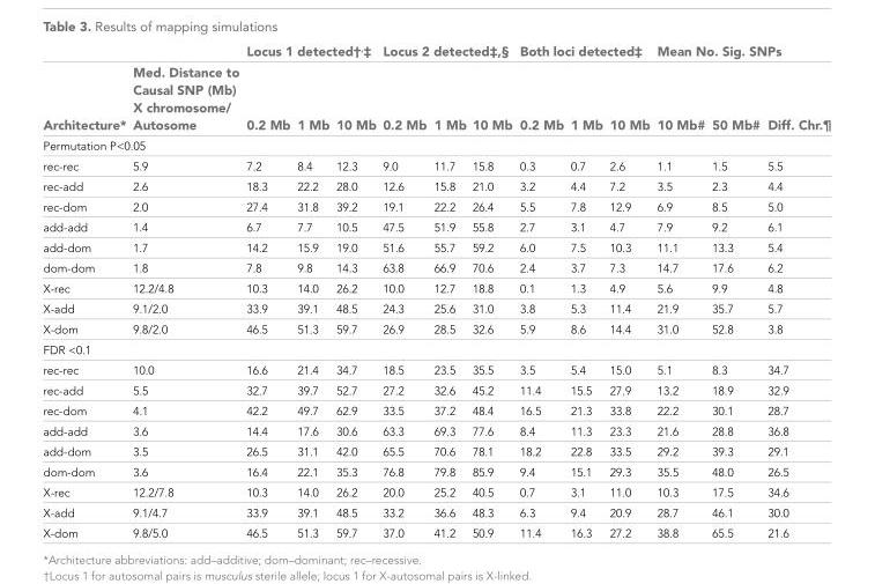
<table><thead><tr><td rowspan="2">Architecture*</td><td rowspan="2">Med. Distance to Causal SNP (Mb) X chromosome/ Autosome</td><td colspan="3">Locus 1 detected†<sup>,</sup>‡</td><td colspan="3">Locus 2 detected‡,§</td><td colspan="3">Both loci detected‡</td><td colspan="3">Mean No. Sig. SNPs</td></tr><tr><td>0.2 Mb</td><td>1 Mb</td><td>10 Mb</td><td>0.2 Mb</td><td>1 Mb</td><td>10 Mb</td><td>0.2 Mb</td><td>1 Mb</td><td>10 Mb</td><td>10 Mb#</td><td>50 Mb#</td><td>Diff. Chr.¶</td></tr></thead><tbody><tr><td colspan="14">Permutation P&lt;0.05</td></tr><tr><td>rec-rec</td><td>5.9</td><td>7.2</td><td>8.4</td><td>12.3</td><td>9.0</td><td>11.7</td><td>15.8</td><td>0.3</td><td>0.7</td><td>2.6</td><td>1.1</td><td>1.5</td><td>5.5</td></tr><tr><td>rec-add</td><td>2.6</td><td>18.3</td><td>22.2</td><td>28.0</td><td>12.6</td><td>15.8</td><td>21.0</td><td>3.2</td><td>4.4</td><td>7.2</td><td>3.5</td><td>2.3</td><td>4.4</td></tr><tr><td>rec-dom</td><td>2.0</td><td>27.4</td><td>31.8</td><td>39.2</td><td>19.1</td><td>22.2</td><td>26.4</td><td>5.5</td><td>7.8</td><td>12.9</td><td>6.9</td><td>8.5</td><td>5.0</td></tr><tr><td>add-add</td><td>1.4</td><td>6.7</td><td>7.7</td><td>10.5</td><td>47.5</td><td>51.9</td><td>55.8</td><td>2.7</td><td>3.1</td><td>4.7</td><td>7.9</td><td>9.2</td><td>6.1</td></tr><tr><td>add-dom</td><td>1.7</td><td>14.2</td><td>15.9</td><td>19.0</td><td>51.6</td><td>55.7</td><td>59.2</td><td>6.0</td><td>7.5</td><td>10.3</td><td>11.1</td><td>13.3</td><td>5.4</td></tr><tr><td>dom-dom</td><td>1.8</td><td>7.8</td><td>9.8</td><td>14.3</td><td>63.8</td><td>66.9</td><td>70.6</td><td>2.4</td><td>3.7</td><td>7.3</td><td>14.7</td><td>17.6</td><td>6.2</td></tr><tr><td>X-rec</td><td>12.2/4.8</td><td>10.3</td><td>14.0</td><td>26.2</td><td>10.0</td><td>12.7</td><td>18.8</td><td>0.1</td><td>1.3</td><td>4.9</td><td>5.6</td><td>9.9</td><td>4.8</td></tr><tr><td>X-add</td><td>9.1/2.0</td><td>33.9</td><td>39.1</td><td>48.5</td><td>24.3</td><td>25.6</td><td>31.0</td><td>3.8</td><td>5.3</td><td>11.4</td><td>21.9</td><td>35.7</td><td>5.7</td></tr><tr><td>X-dom</td><td>9.8/2.0</td><td>46.5</td><td>51.3</td><td>59.7</td><td>26.9</td><td>28.5</td><td>32.6</td><td>5.9</td><td>8.6</td><td>14.4</td><td>31.0</td><td>52.8</td><td>3.8</td></tr><tr><td colspan="14">FDR &lt;0.1</td></tr><tr><td>rec-rec</td><td>10.0</td><td>16.6</td><td>21.4</td><td>34.7</td><td>18.5</td><td>23.5</td><td>35.5</td><td>3.5</td><td>5.4</td><td>15.0</td><td>5.1</td><td>8.3</td><td>34.7</td></tr><tr><td>rec-add</td><td>5.5</td><td>32.7</td><td>39.7</td><td>52.7</td><td>27.2</td><td>32.6</td><td>45.2</td><td>11.4</td><td>15.5</td><td>27.9</td><td>13.2</td><td>18.9</td><td>32.9</td></tr><tr><td>rec-dom</td><td>4.1</td><td>42.2</td><td>49.7</td><td>62.9</td><td>33.5</td><td>37.2</td><td>48.4</td><td>16.5</td><td>21.3</td><td>33.8</td><td>22.2</td><td>30.1</td><td>28.7</td></tr><tr><td>add-add</td><td>3.6</td><td>14.4</td><td>17.6</td><td>30.6</td><td>63.3</td><td>69.3</td><td>77.6</td><td>8.4</td><td>11.3</td><td>23.3</td><td>21.6</td><td>28.8</td><td>36.8</td></tr><tr><td>add-dom</td><td>3.5</td><td>26.5</td><td>31.1</td><td>42.0</td><td>65.5</td><td>70.6</td><td>78.1</td><td>18.2</td><td>22.8</td><td>33.5</td><td>29.2</td><td>39.3</td><td>29.1</td></tr><tr><td>dom-dom</td><td>3.6</td><td>16.4</td><td>22.1</td><td>35.3</td><td>76.8</td><td>79.8</td><td>85.9</td><td>9.4</td><td>15.1</td><td>29.3</td><td>35.5</td><td>48.0</td><td>26.5</td></tr><tr><td>X-rec</td><td>12.2/7.8</td><td>10.3</td><td>14.0</td><td>26.2</td><td>20.0</td><td>25.2</td><td>40.5</td><td>0.7</td><td>3.1</td><td>11.0</td><td>10.3</td><td>17.5</td><td>34.6</td></tr><tr><td>X-add</td><td>9.1/4.7</td><td>33.9</td><td>39.1</td><td>48.5</td><td>33.2</td><td>36.6</td><td>48.3</td><td>6.3</td><td>9.4</td><td>20.9</td><td>28.7</td><td>46.1</td><td>30.0</td></tr><tr><td>X-dom</td><td>9.8/5.0</td><td>46.5</td><td>51.3</td><td>59.7</td><td>37.0</td><td>41.2</td><td>50.9</td><td>11.4</td><td>16.3</td><td>27.2</td><td>38.8</td><td>65.5</td><td>21.6</td></tr></tbody></table>